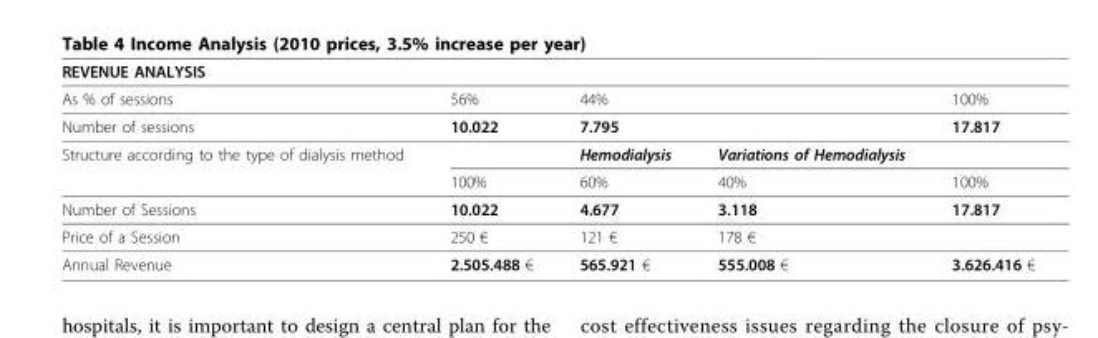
<table><thead><tr><td colspan="5">REVENUE ANALYSIS</td></tr><tr><td rowspan="3">As % of sessions Number of sessions Structure according to the type of dialysis method</td><td rowspan="3">56% 10.022</td><td rowspan="2" colspan="2">44% 7.795</td><td rowspan="3">100% 17.817</td></tr><tr></tr><tr><td>Hemodialysis</td><td>Variations of Hemodialysis</td></tr></thead><tbody><tr><td></td><td>100%</td><td>60%</td><td>40%</td><td>100%</td></tr><tr><td>Number of Sessions</td><td>10.022</td><td>4.677</td><td>3.118</td><td>17.817</td></tr><tr><td>Price of a Session</td><td>250 €</td><td>121 €</td><td>178 €</td><td></td></tr><tr><td>Annual Revenue</td><td>2.505.488 €</td><td>565.921 €</td><td>555.008 €</td><td>3.626.416 €</td></tr></tbody></table>